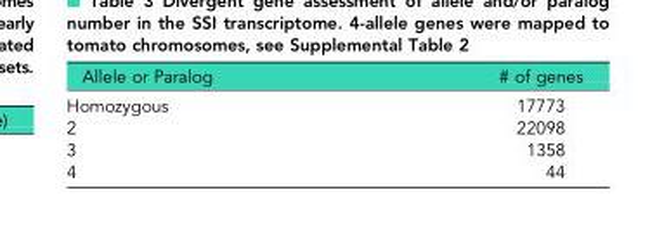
<table><thead><tr><td>Allele or Paralog</td><td># of genes</td></tr></thead><tbody><tr><td>Homozygous</td><td>17773</td></tr><tr><td>2</td><td>22098</td></tr><tr><td>3</td><td>1358</td></tr><tr><td>4</td><td>44</td></tr></tbody></table>